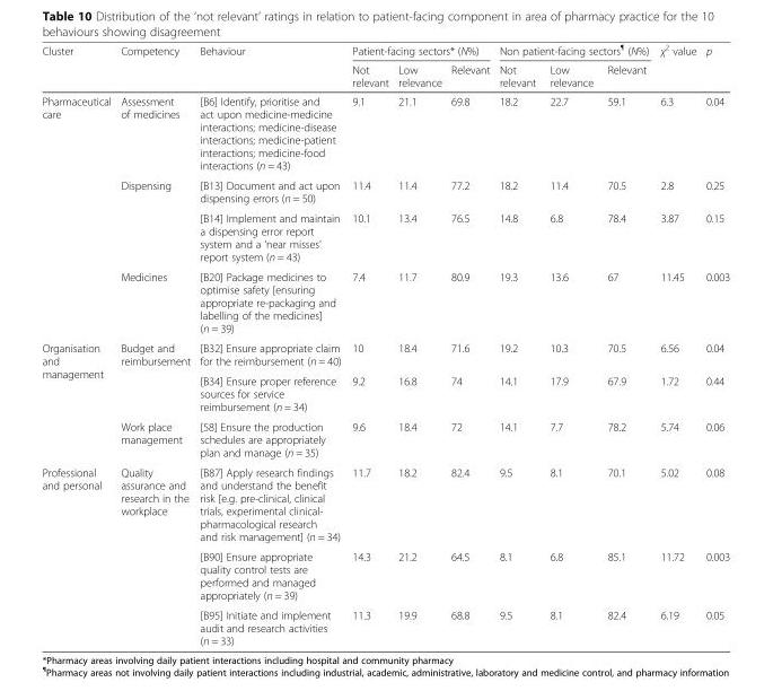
<table><thead><tr><td rowspan="2">Cluster</td><td rowspan="2">Competency</td><td rowspan="2">Behaviour</td><td colspan="3">Patient-facing sectors* (N%)</td><td colspan="3">Non patient-facing sectors<sup>¶</sup> (N%)</td><td rowspan="2">χ<sup>2</sup> value</td><td rowspan="2">p</td></tr><tr><td>Not relevant</td><td>Low relevance</td><td>Relevant</td><td>Not relevant</td><td>Low relevance</td><td>Relevant</td></tr></thead><tbody><tr><td rowspan="4">Pharmaceutical care</td><td>Assessment of medicines</td><td>[B6] Identify, prioritise and act upon medicine-medicine interactions; medicine-disease interactions; medicine-patient interactions; medicine-food interactions (n = 43)</td><td>9.1</td><td>21.1</td><td>69.8</td><td>18.2</td><td>22.7</td><td>59.1</td><td>6.3</td><td>0.04</td></tr><tr><td rowspan="2">Dispensing</td><td>[B13] Document and act upon dispensing errors (n = 50)</td><td>11.4</td><td>11.4</td><td>77.2</td><td>18.2</td><td>11.4</td><td>70.5</td><td>2.8</td><td>0.25</td></tr><tr><td>[B14] Implement and maintain a dispensing error report system and a ‘near misses’ report system (n = 43)</td><td>10.1</td><td>13.4</td><td>76.5</td><td>14.8</td><td>6.8</td><td>78.4</td><td>3.87</td><td>0.15</td></tr><tr><td>Medicines</td><td>[B20] Package medicines to optimise safety [ensuring appropriate re-packaging and labelling of the medicines] (n = 39)</td><td>7.4</td><td>11.7</td><td>80.9</td><td>19.3</td><td>13.6</td><td>67</td><td>11.45</td><td>0.003</td></tr><tr><td rowspan="3">Organisation and management</td><td rowspan="2">Budget and reimbursement</td><td>[B32] Ensure appropriate claim for the reimbursement (n = 40)</td><td>10</td><td>18.4</td><td>71.6</td><td>19.2</td><td>10.3</td><td>70.5</td><td>6.56</td><td>0.04</td></tr><tr><td>[B34] Ensure proper reference sources for service reimbursement (n = 34)</td><td>9.2</td><td>16.8</td><td>74</td><td>14.1</td><td>17.9</td><td>67.9</td><td>1.72</td><td>0.44</td></tr><tr><td>Work place management</td><td>[58] Ensure the production schedules are appropriately plan and manage (n = 35)</td><td>9.6</td><td>18.4</td><td>72</td><td>14.1</td><td>7.7</td><td>78.2</td><td>5.74</td><td>0.06</td></tr><tr><td rowspan="3">Professional and personal</td><td rowspan="3">Quality assurance and research in the workplace</td><td>[B87] Apply research findings and understand the benefit risk [e.g. pre-clinical, clinical trials, experimental clinical- pharmacological research and risk management] (n = 34)</td><td>11.7</td><td>18.2</td><td>82.4</td><td>9.5</td><td>8.1</td><td>70.1</td><td>5.02</td><td>0.08</td></tr><tr><td>[B90] Ensure appropriate quality control tests are performed and managed appropriately (n = 39)</td><td>14.3</td><td>21.2</td><td>64.5</td><td>8.1</td><td>6.8</td><td>85.1</td><td>11.72</td><td>0.003</td></tr><tr><td>[B95] Initiate and implement audit and research activities (n = 33)</td><td>11.3</td><td>19.9</td><td>68.8</td><td>9.5</td><td>8.1</td><td>82.4</td><td>6.19</td><td>0.05</td></tr></tbody></table>